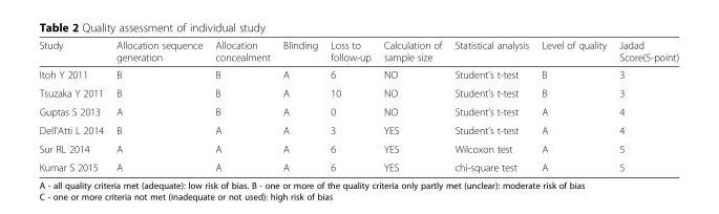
<table><thead><tr><td>Study</td><td>Allocation sequence generation</td><td>Allocation concealment</td><td>Blinding</td><td>Loss to follow-up</td><td>Calculation of sample size</td><td>Statistical analysis</td><td>Level of quality</td><td>Jadad Score(5-point)</td></tr></thead><tbody><tr><td>Itoh Y 2011</td><td>B</td><td>B</td><td>A</td><td>6</td><td>NO</td><td>Student’s t-test</td><td>B</td><td>3</td></tr><tr><td>Tsuzaka Y 2011</td><td>B</td><td>B</td><td>A</td><td>10</td><td>NO</td><td>Student’s t-test</td><td>B</td><td>3</td></tr><tr><td>Guptas S 2013</td><td>A</td><td>B</td><td>A</td><td>0</td><td>NO</td><td>Student’s t-test</td><td>A</td><td>4</td></tr><tr><td>Dell&#x27;Atti L 2014</td><td>B</td><td>A</td><td>A</td><td>3</td><td>YES</td><td>Student’s t-test</td><td>A</td><td>4</td></tr><tr><td>Sur RL 2014</td><td>A</td><td>A</td><td>A</td><td>6</td><td>YES</td><td>Wilcoxon test</td><td>A</td><td>5</td></tr><tr><td>Kumar S 2015</td><td>A</td><td>A</td><td>A</td><td>6</td><td>YES</td><td>chi-square test</td><td>A</td><td>5</td></tr></tbody></table>